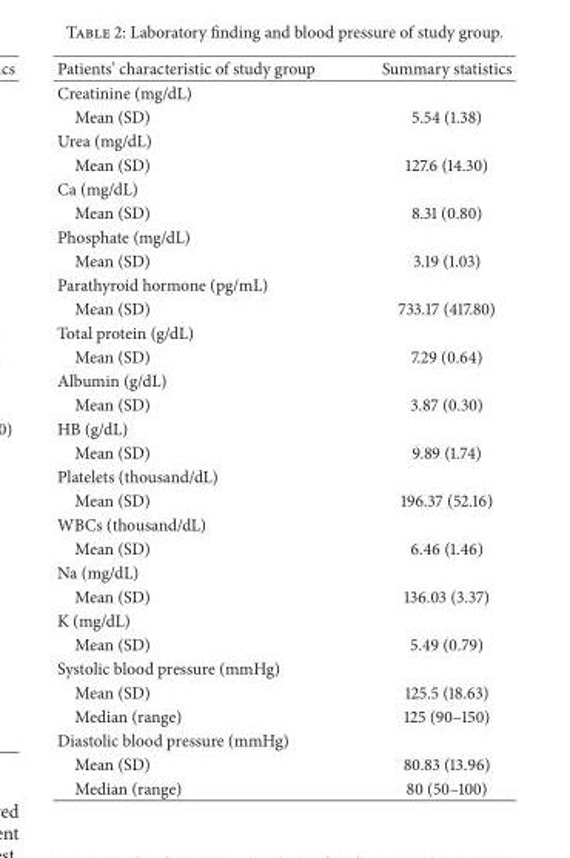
<table><thead><tr><td>Patients’ characteristic of study group</td><td>Summary statistics</td></tr></thead><tbody><tr><td colspan="2">Creatinine (mg/dL)</td></tr><tr><td>Mean (SD)</td><td>5.54 (1.38)</td></tr><tr><td colspan="2">Urea (mg/dL)</td></tr><tr><td>Mean (SD)</td><td>127.6 (14.30)</td></tr><tr><td colspan="2">Ca (mg/dL)</td></tr><tr><td>Mean (SD)</td><td>8.31 (0.80)</td></tr><tr><td colspan="2">Phosphate (mg/dL)</td></tr><tr><td>Mean (SD)</td><td>3.19 (1.03)</td></tr><tr><td colspan="2">Parathyroid hormone (pg/mL)</td></tr><tr><td>Mean (SD)</td><td>733.17 (417.80)</td></tr><tr><td colspan="2">Total protein (g/dL)</td></tr><tr><td>Mean (SD)</td><td>7.29 (0.64)</td></tr><tr><td colspan="2">Albumin (g/dL)</td></tr><tr><td>Mean (SD)</td><td>3.87 (0.30)</td></tr><tr><td colspan="2">HB (g/dL)</td></tr><tr><td>Mean (SD)</td><td>9.89 (1.74)</td></tr><tr><td colspan="2">Platelets (thousand/dL)</td></tr><tr><td>Mean (SD)</td><td>196.37 (52.16)</td></tr><tr><td colspan="2">WBCs (thousand/dL)</td></tr><tr><td>Mean (SD)</td><td>6.46 (1.46)</td></tr><tr><td colspan="2">Na (mg/dL)</td></tr><tr><td>Mean (SD)</td><td>136.03 (3.37)</td></tr><tr><td colspan="2">K (mg/dL)</td></tr><tr><td>Mean (SD)</td><td>5.49 (0.79)</td></tr><tr><td colspan="2">Systolic blood pressure (mmHg)</td></tr><tr><td>Mean (SD)</td><td>125.5 (18.63)</td></tr><tr><td>Median (range)</td><td>125 (90–150)</td></tr><tr><td colspan="2">Diastolic blood pressure (mmHg)</td></tr><tr><td>Mean (SD)</td><td>80.83 (13.96)</td></tr><tr><td>Median (range)</td><td>80 (50–100)</td></tr></tbody></table>